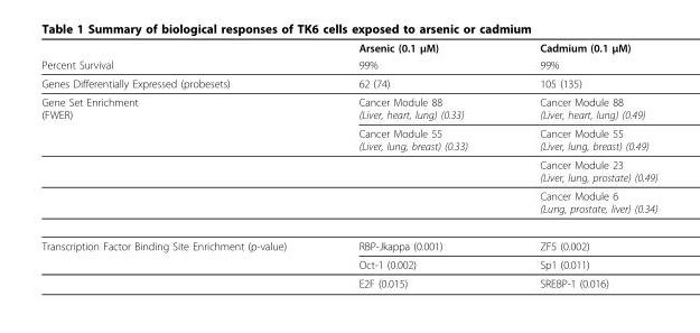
<table><thead><tr><td rowspan="2">Percent Survival</td><td rowspan="2">Arsenic (0.1 μM) 99%</td><td rowspan="2">Cadmium (0.1 μM) 99%</td></tr><tr></tr></thead><tbody><tr><td>Genes Differentially Expressed (probesets)</td><td>62 (74)</td><td>105 (135)</td></tr><tr><td rowspan="4">Gene Set Enrichment (FWER)</td><td>Cancer Module 88 (Liver, heart, lung) (0.33)</td><td>Cancer Module 88 (Liver, heart, lung) (0.49)</td></tr><tr><td>Cancer Module 55 (Liver, lung, breast) (0.33)</td><td>Cancer Module 55 (Liver, lung, breast) (0.49)</td></tr><tr><td></td><td>Cancer Module 23 (Liver, lung, prostate) (0.49)</td></tr><tr><td></td><td>Cancer Module 6 (Lung, prostate, liver) (0.34)</td></tr><tr><td rowspan="3">Transcription Factor Binding Site Enrichment (p-value)</td><td>RBP-Jkappa (0.001)</td><td>ZF5 (0.002)</td></tr><tr><td>Oct-1 (0.002)</td><td>Sp1 (0.011)</td></tr><tr><td>E2F (0.015)</td><td>SREBP-1 (0.016)</td></tr></tbody></table>